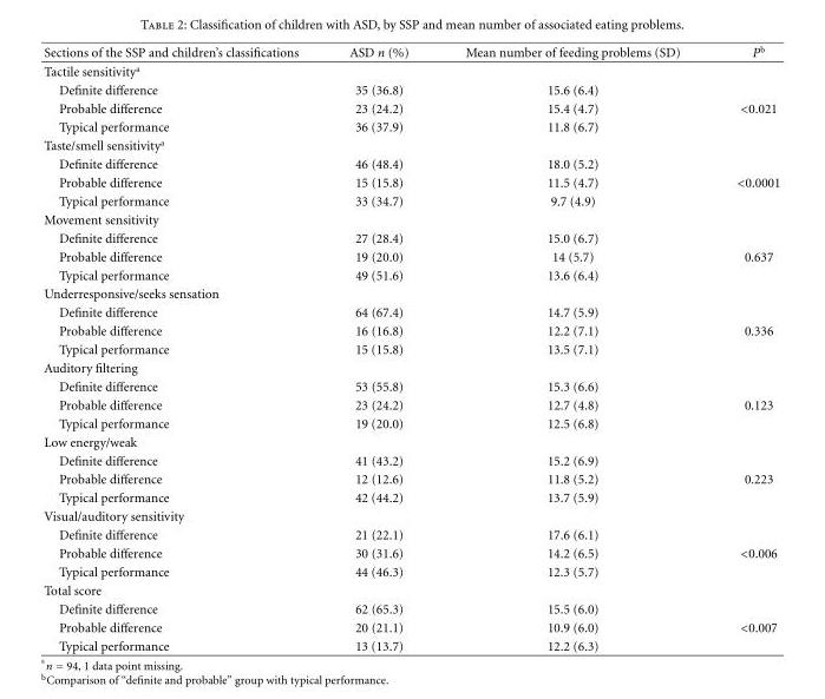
<table><thead><tr><td>Sections of the SSP and children’s classifications</td><td>ASD n (%)</td><td>Mean number of feeding problems (SD)</td><td>P<sup>b</sup></td></tr></thead><tbody><tr><td colspan="4">Tactile sensitivity<sup>a</sup></td></tr><tr><td>Definite difference</td><td>35 (36.8)</td><td>15.6 (6.4)</td><td></td></tr><tr><td>Probable difference</td><td>23 (24.2)</td><td>15.4 (4.7)</td><td>&lt;0.021</td></tr><tr><td>Typical performance</td><td>36 (37.9)</td><td>11.8 (6.7)</td><td></td></tr><tr><td colspan="4">Taste/smell sensitivity<sup>a</sup></td></tr><tr><td>Definite difference</td><td>46 (48.4)</td><td>18.0 (5.2)</td><td></td></tr><tr><td>Probable difference</td><td>15 (15.8)</td><td>11.5 (4.7)</td><td>&lt;0.0001</td></tr><tr><td>Typical performance</td><td>33 (34.7)</td><td>9.7 (4.9)</td><td></td></tr><tr><td colspan="4">Movement sensitivity</td></tr><tr><td>Definite difference</td><td>27 (28.4)</td><td>15.0 (6.7)</td><td></td></tr><tr><td>Probable difference</td><td>19 (20.0)</td><td>14 (5.7)</td><td>0.637</td></tr><tr><td>Typical performance</td><td>49 (51.6)</td><td>13.6 (6.4)</td><td></td></tr><tr><td colspan="4">Underresponsive/seeks sensation</td></tr><tr><td>Definite difference</td><td>64 (67.4)</td><td>14.7 (5.9)</td><td></td></tr><tr><td>Probable difference</td><td>16 (16.8)</td><td>12.2 (7.1)</td><td>0.336</td></tr><tr><td>Typical performance</td><td>15 (15.8)</td><td>13.5 (7.1)</td><td></td></tr><tr><td colspan="4">Auditory filtering</td></tr><tr><td>Definite difference</td><td>53 (55.8)</td><td>15.3 (6.6)</td><td></td></tr><tr><td>Probable difference</td><td>23 (24.2)</td><td>12.7 (4.8)</td><td>0.123</td></tr><tr><td>Typical performance</td><td>19 (20.0)</td><td>12.5 (6.8)</td><td></td></tr><tr><td colspan="4">Low energy/weak</td></tr><tr><td>Definite difference</td><td>41 (43.2)</td><td>15.2 (6.9)</td><td></td></tr><tr><td>Probable difference</td><td>12 (12.6)</td><td>11.8 (5.2)</td><td>0.223</td></tr><tr><td>Typical performance</td><td>42 (44.2)</td><td>13.7 (5.9)</td><td></td></tr><tr><td colspan="4">Visual/auditory sensitivity</td></tr><tr><td>Definite difference</td><td>21 (22.1)</td><td>17.6 (6.1)</td><td></td></tr><tr><td>Probable difference</td><td>30 (31.6)</td><td>14.2 (6.5)</td><td>&lt;0.006</td></tr><tr><td>Typical performance</td><td>44 (46.3)</td><td>12.3 (5.7)</td><td></td></tr><tr><td colspan="4">Total score</td></tr><tr><td>Definite difference</td><td>62 (65.3)</td><td>15.5 (6.0)</td><td></td></tr><tr><td>Probable difference</td><td>20 (21.1)</td><td>10.9 (6.0)</td><td>&lt;0.007</td></tr><tr><td>Typical performance</td><td>13 (13.7)</td><td>12.2 (6.3)</td><td></td></tr></tbody></table>